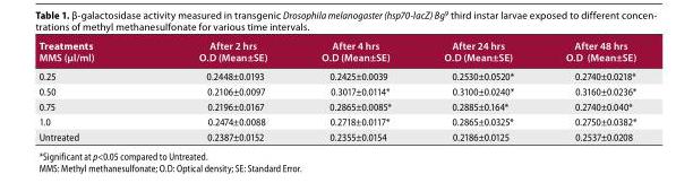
<table><thead><tr><td>Treatments MMS (μl/ml)</td><td>After 2 hrs O.D (Mean±SE)</td><td>After 4 hrs O.D (Mean±SE)</td><td>After 24 hrs O.D (Mean±SE)</td><td>After 48 hrs O.D (Mean±SE)</td></tr></thead><tbody><tr><td>0.25</td><td>0.2448±0.0193</td><td>0.2425±0.0039</td><td>0.2530±0.0520*</td><td>0.2740±0.0218*</td></tr><tr><td>0.50</td><td>0.2106±0.0097</td><td>0.3017±0.0114*</td><td>0.3100±0.0240*</td><td>0.3160±0.0236*</td></tr><tr><td>0.75</td><td>0.2196±0.0167</td><td>0.2865±0.0085*</td><td>0.2885±0.164*</td><td>0.2740±0.040*</td></tr><tr><td>1.0</td><td>0.2474±0.0088</td><td>0.2718±0.0117*</td><td>0.2865±0.0325*</td><td>0.2750±0.0382*</td></tr><tr><td>Untreated</td><td>0.2387±0.0152</td><td>0.2355±0.0154</td><td>0.2186±0.0125</td><td>0.2537±0.0208</td></tr></tbody></table>